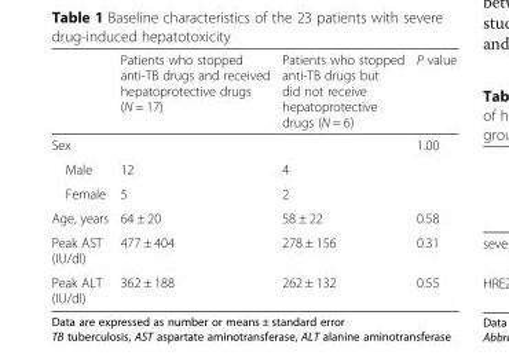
<table><thead><tr><td></td><td>Patients who stopped anti-TB drugs and received hepatoprotective drugs (N = 17)</td><td>Patients who stopped anti-TB drugs but did not receive hepatoprotective drugs (N = 6)</td><td>P value</td></tr></thead><tbody><tr><td>Sex</td><td></td><td></td><td>1.00</td></tr><tr><td>Male</td><td>12</td><td>4</td><td></td></tr><tr><td>Female</td><td>5</td><td>2</td><td></td></tr><tr><td>Age, years</td><td>64 ± 20</td><td>58 ± 22</td><td>0.58</td></tr><tr><td>Peak AST (IU/dl)</td><td>477 ± 404</td><td>278 ± 156</td><td>0.31</td></tr><tr><td>Peak ALT (IU/dl)</td><td>362 ± 188</td><td>262 ± 132</td><td>0.55</td></tr></tbody></table>